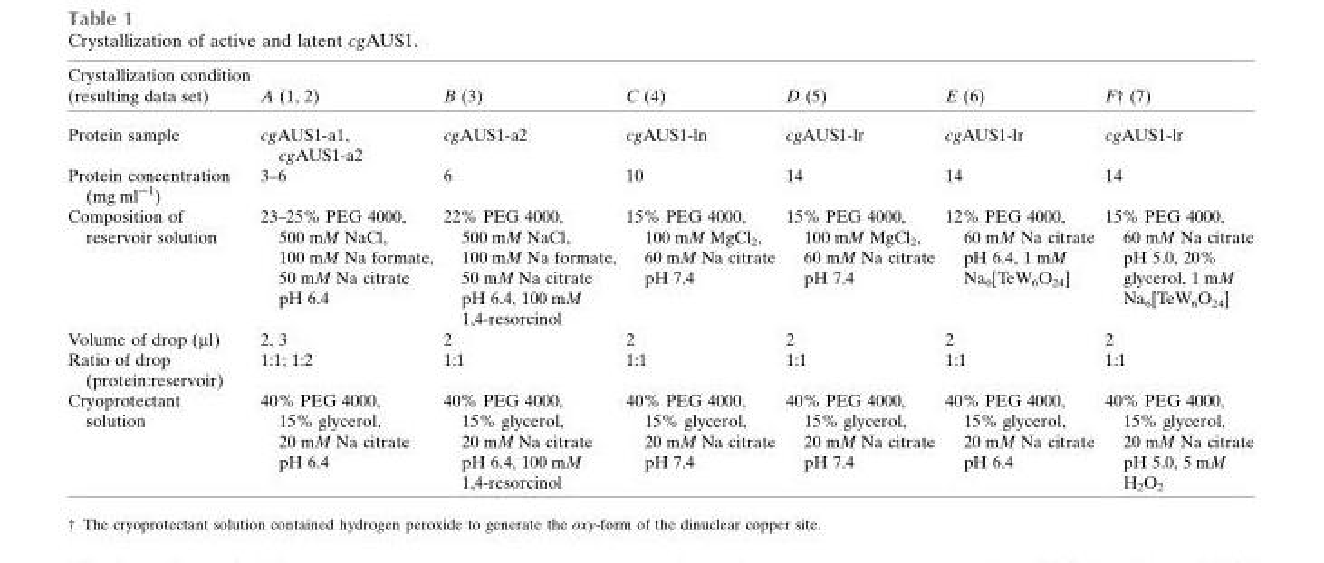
<table><thead><tr><td>Crystallization condition (resulting data set)</td><td>A (1, 2)</td><td>B (3)</td><td>C (4)</td><td>D (5)</td><td>E (6)</td><td>F† (7)</td></tr></thead><tbody><tr><td>Protein sample</td><td>cgAUS1-a1, cgAUS1-a2</td><td>cgAUS1-a2</td><td>cgAUS1-ln</td><td>cgAUS1-lr</td><td>cgAUS1-lr</td><td>cgAUS1-lr</td></tr><tr><td>Protein concentration (mg ml�1)</td><td>3–6</td><td>6</td><td>10</td><td>14</td><td>14</td><td>14</td></tr><tr><td>Composition of reservoir solution</td><td>23–25% PEG 4000, 500 mM NaCl, 100 mM Na formate, 50 mM Na citrate pH 6.4</td><td>22% PEG 4000, 500 mM NaCl, 100 mM Na formate, 50 mM Na citrate pH 6.4, 100 mM 1,4-resorcinol</td><td>15% PEG 4000, 100 mM MgCl<sub>2</sub>, 60 mM Na citrate pH 7.4</td><td>15% PEG 4000, 100 mM MgCl<sub>2</sub>, 60 mM Na citrate pH 7.4</td><td>12% PEG 4000, 60 mM Na citrate pH 6.4, 1 mM Na<sub>6</sub>[TeW<sub>6</sub>O<sub>24</sub>]</td><td>15% PEG 4000, 60 mM Na citrate pH 5.0, 20% glycerol, 1 mM Na<sub>6</sub>[TeW<sub>6</sub>O<sub>24</sub>]</td></tr><tr><td>Volume of drop (ml)</td><td>2, 3</td><td>2</td><td>2</td><td>2</td><td>2</td><td>2</td></tr><tr><td>Ratio of drop (protein:reservoir)</td><td>1:1; 1:2</td><td>1:1</td><td>1:1</td><td>1:1</td><td>1:1</td><td>1:1</td></tr><tr><td>Cryoprotectant solution</td><td>40% PEG 4000, 15% glycerol, 20 mM Na citrate pH 6.4</td><td>40% PEG 4000, 15% glycerol, 20 mM Na citrate pH 6.4, 100 mM 1,4-resorcinol</td><td>40% PEG 4000, 15% glycerol, 20 mM Na citrate pH 7.4</td><td>40% PEG 4000, 15% glycerol, 20 mM Na citrate pH 7.4</td><td>40% PEG 4000, 15% glycerol, 20 mM Na citrate pH 6.4</td><td>40% PEG 4000, 15% glycerol, 20 mM Na citrate pH 5.0, 5 mM H<sub>2</sub>O<sub>2</sub></td></tr></tbody></table>